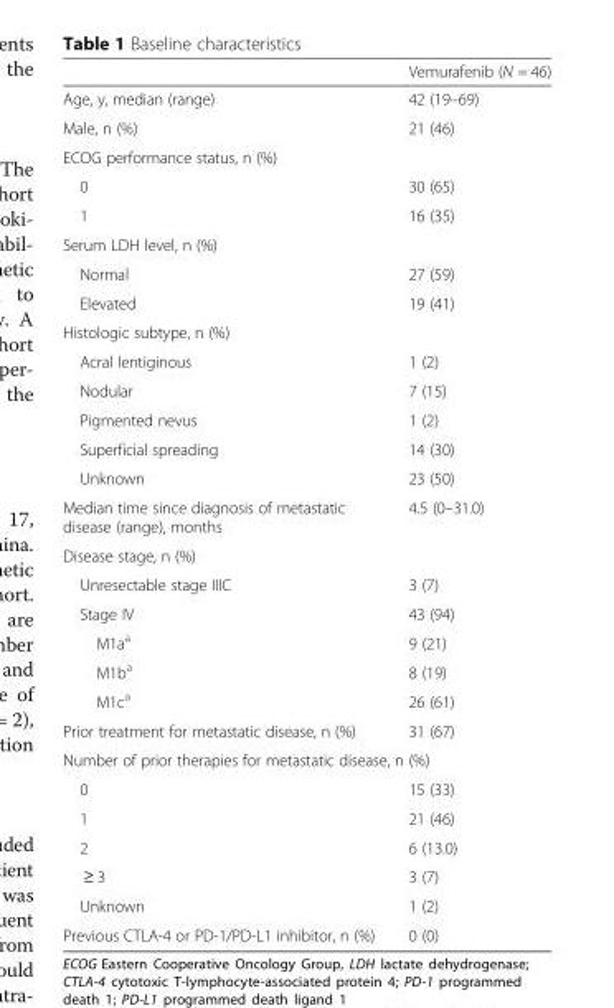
<table><thead><tr><td></td><td>Vemurafenib (N = 46)</td></tr></thead><tbody><tr><td>Age, y, median (range)</td><td>42 (19–69)</td></tr><tr><td>Male, n (%)</td><td>21 (46)</td></tr><tr><td colspan="2">ECOG performance status, n (%)</td></tr><tr><td>0</td><td>30 (65)</td></tr><tr><td>1</td><td>16 (35)</td></tr><tr><td colspan="2">Serum LDH level, n (%)</td></tr><tr><td>Normal</td><td>27 (59)</td></tr><tr><td>Elevated</td><td>19 (41)</td></tr><tr><td colspan="2">Histologic subtype, n (%)</td></tr><tr><td>Acral lentiginous</td><td>1 (2)</td></tr><tr><td>Nodular</td><td>7 (15)</td></tr><tr><td>Pigmented nevus</td><td>1 (2)</td></tr><tr><td>Superficial spreading</td><td>14 (30)</td></tr><tr><td>Unknown</td><td>23 (50)</td></tr><tr><td>Median time since diagnosis of metastatic disease (range), months</td><td>4.5 (0–31.0)</td></tr><tr><td colspan="2">Disease stage, n (%)</td></tr><tr><td>Unresectable stage IIIC</td><td>3 (7)</td></tr><tr><td>Stage IV</td><td>43 (94)</td></tr><tr><td>M1a<sup>a</sup></td><td>9 (21)</td></tr><tr><td>M1b<sup>a</sup></td><td>8 (19)</td></tr><tr><td>M1c<sup>a</sup></td><td>26 (61)</td></tr><tr><td>Prior treatment for metastatic disease, n (%)</td><td>31 (67)</td></tr><tr><td colspan="2">Number of prior therapies for metastatic disease, n (%)</td></tr><tr><td>0</td><td>15 (33)</td></tr><tr><td>1</td><td>21 (46)</td></tr><tr><td>2</td><td>6 (13.0)</td></tr><tr><td>≥ 3</td><td>3 (7)</td></tr><tr><td>Unknown</td><td>1 (2)</td></tr><tr><td>Previous CTLA-4 or PD-1/PD-L1 inhibitor, n (%)</td><td>0 (0)</td></tr></tbody></table>